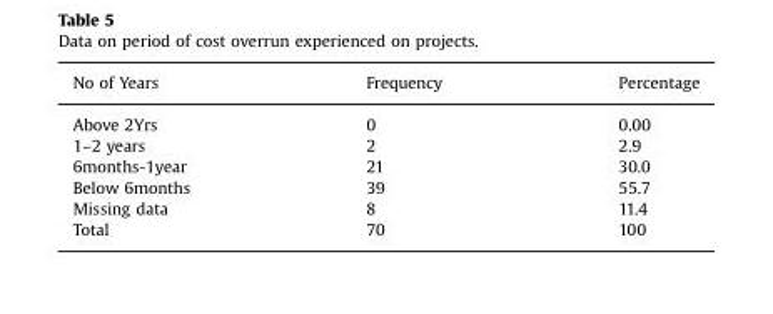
<table><thead><tr><td>No of Years</td><td>Frequency</td><td>Percentage</td></tr></thead><tbody><tr><td>Above 2Yrs</td><td>0</td><td>0.00</td></tr><tr><td>1–2 years</td><td>2</td><td>2.9</td></tr><tr><td>6months-1year</td><td>21</td><td>30.0</td></tr><tr><td>Below 6months</td><td>39</td><td>55.7</td></tr><tr><td>Missing data</td><td>8</td><td>11.4</td></tr><tr><td>Total</td><td>70</td><td>100</td></tr></tbody></table>